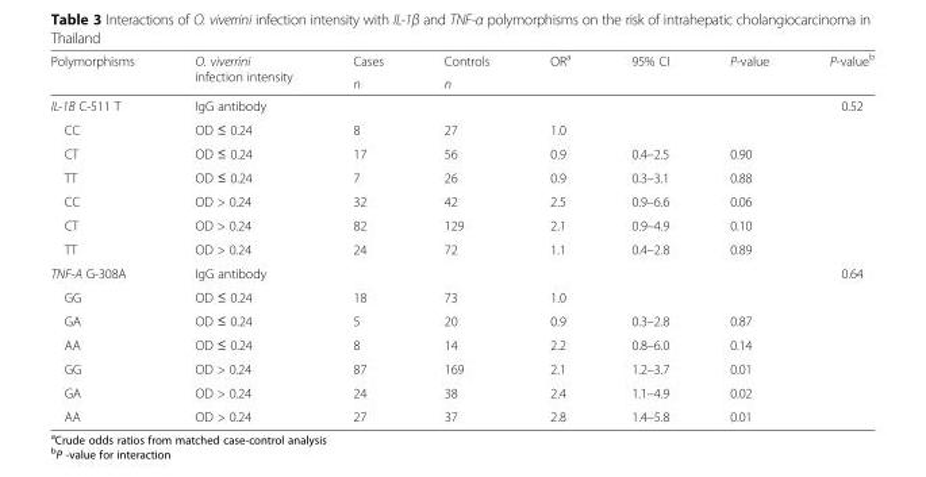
<table><thead><tr><td rowspan="2">Polymorphisms</td><td rowspan="2">O. viverrini infection intensity</td><td rowspan="2">Cases n</td><td rowspan="2">Controls n</td><td rowspan="2">OR<sup>a</sup></td><td rowspan="2">95% CI</td><td rowspan="2">P-value</td><td rowspan="2">P-value<sup>b</sup></td></tr><tr></tr></thead><tbody><tr><td>IL-1B C-511 T</td><td>IgG antibody</td><td></td><td></td><td></td><td></td><td></td><td>0.52</td></tr><tr><td>CC</td><td>OD ≤ 0.24</td><td>8</td><td>27</td><td>1.0</td><td></td><td></td><td></td></tr><tr><td>CT</td><td>OD ≤ 0.24</td><td>17</td><td>56</td><td>0.9</td><td>0.4–2.5</td><td>0.90</td><td></td></tr><tr><td>TT</td><td>OD ≤ 0.24</td><td>7</td><td>26</td><td>0.9</td><td>0.3–3.1</td><td>0.88</td><td></td></tr><tr><td>CC</td><td>OD &gt; 0.24</td><td>32</td><td>42</td><td>2.5</td><td>0.9–6.6</td><td>0.06</td><td></td></tr><tr><td>CT</td><td>OD &gt; 0.24</td><td>82</td><td>129</td><td>2.1</td><td>0.9–4.9</td><td>0.10</td><td></td></tr><tr><td>TT</td><td>OD &gt; 0.24</td><td>24</td><td>72</td><td>1.1</td><td>0.4–2.8</td><td>0.89</td><td></td></tr><tr><td>TNF-A G-308A</td><td>IgG antibody</td><td></td><td></td><td></td><td></td><td></td><td>0.64</td></tr><tr><td>GG</td><td>OD ≤ 0.24</td><td>18</td><td>73</td><td>1.0</td><td></td><td></td><td></td></tr><tr><td>GA</td><td>OD ≤ 0.24</td><td>5</td><td>20</td><td>0.9</td><td>0.3–2.8</td><td>0.87</td><td></td></tr><tr><td>AA</td><td>OD ≤ 0.24</td><td>8</td><td>14</td><td>2.2</td><td>0.8–6.0</td><td>0.14</td><td></td></tr><tr><td>GG</td><td>OD &gt; 0.24</td><td>87</td><td>169</td><td>2.1</td><td>1.2–3.7</td><td>0.01</td><td></td></tr><tr><td>GA</td><td>OD &gt; 0.24</td><td>24</td><td>38</td><td>2.4</td><td>1.1–4.9</td><td>0.02</td><td></td></tr><tr><td>AA</td><td>OD &gt; 0.24</td><td>27</td><td>37</td><td>2.8</td><td>1.4–5.8</td><td>0.01</td><td></td></tr></tbody></table>